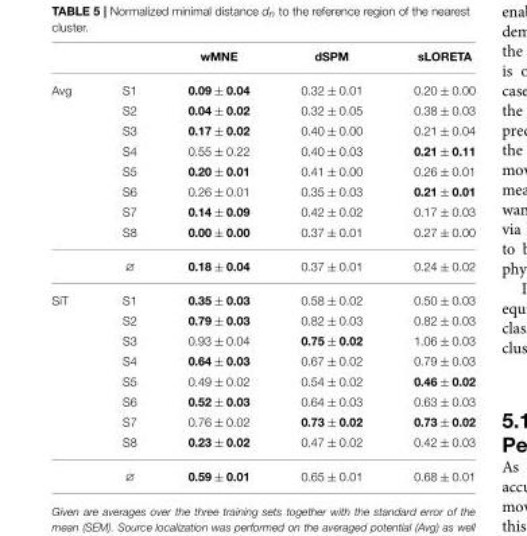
<table><thead><tr><td></td><td></td><td>wMNE</td><td>dSPM</td><td>sLORETA</td></tr></thead><tbody><tr><td rowspan="9">Avg</td><td>S1</td><td>0.09 ± 0.04</td><td>0.32 ± 0.01</td><td>0.20 ± 0.00</td></tr><tr><td>S2</td><td>0.04 ± 0.02</td><td>0.32 ± 0.05</td><td>0.38 ± 0.03</td></tr><tr><td>S3</td><td>0.17 ± 0.02</td><td>0.40 ± 0.00</td><td>0.21 ± 0.04</td></tr><tr><td>S4</td><td>0.55 ± 0.22</td><td>0.40 ± 0.03</td><td>0.21 ± 0.11</td></tr><tr><td>S5</td><td>0.20 ± 0.01</td><td>0.41 ± 0.00</td><td>0.26 ± 0.01</td></tr><tr><td>S6</td><td>0.26 ± 0.01</td><td>0.35 ± 0.03</td><td>0.21 ± 0.01</td></tr><tr><td>S7</td><td>0.14 ± 0.09</td><td>0.42 ± 0.02</td><td>0.17 ± 0.03</td></tr><tr><td>S8</td><td>0.00 ± 0.00</td><td>0.37 ± 0.01</td><td>0.27 ± 0.00</td></tr><tr><td>∅</td><td>0.18 ± 0.04</td><td>0.37 ± 0.01</td><td>0.24 ± 0.02</td></tr><tr><td rowspan="9">SiT</td><td>S1</td><td>0.35 ± 0.03</td><td>0.58 ± 0.02</td><td>0.50 ± 0.03</td></tr><tr><td>S2</td><td>0.79 ± 0.03</td><td>0.82 ± 0.03</td><td>0.82 ± 0.03</td></tr><tr><td>S3</td><td>0.93 ± 0.04</td><td>0.75 ± 0.02</td><td>1.06 ± 0.03</td></tr><tr><td>S4</td><td>0.64 ± 0.03</td><td>0.67 ± 0.02</td><td>0.79 ± 0.03</td></tr><tr><td>S5</td><td>0.49 ± 0.02</td><td>0.54 ± 0.02</td><td>0.46 ± 0.02</td></tr><tr><td>S6</td><td>0.52 ± 0.03</td><td>0.64 ± 0.03</td><td>0.63 ± 0.03</td></tr><tr><td>S7</td><td>0.76 ± 0.02</td><td>0.73 ± 0.02</td><td>0.73 ± 0.02</td></tr><tr><td>S8</td><td>0.23 ± 0.02</td><td>0.47 ± 0.02</td><td>0.42 ± 0.03</td></tr><tr><td>∅</td><td>0.59 ± 0.01</td><td>0.65 ± 0.01</td><td>0.68 ± 0.01</td></tr></tbody></table>